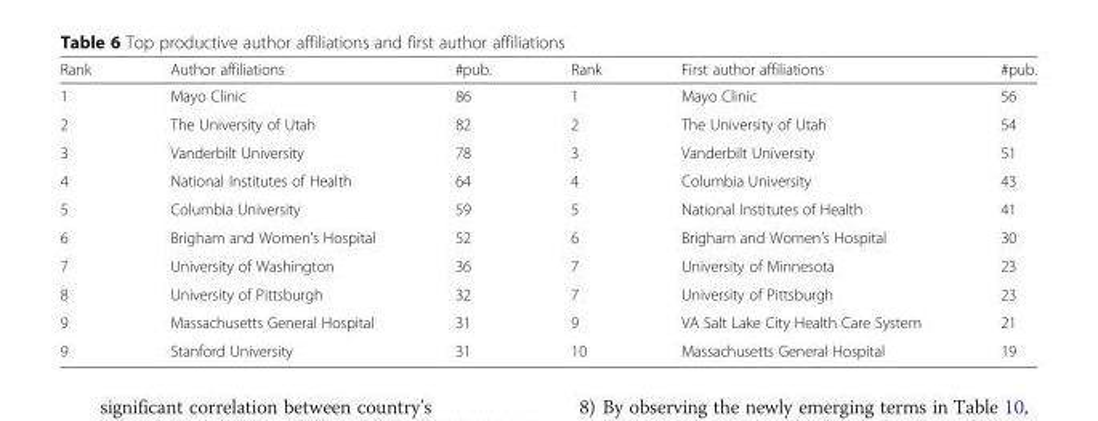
<table><thead><tr><td>Rank</td><td>Author affiliations</td><td>#pub.</td><td>Rank</td><td>First author affiliations</td><td>#pub.</td></tr></thead><tbody><tr><td>1</td><td>Mayo Clinic</td><td>86</td><td>1</td><td>Mayo Clinic</td><td>56</td></tr><tr><td>2</td><td>The University of Utah</td><td>82</td><td>2</td><td>The University of Utah</td><td>54</td></tr><tr><td>3</td><td>Vanderbilt University</td><td>78</td><td>3</td><td>Vanderbilt University</td><td>51</td></tr><tr><td>4</td><td>National Institutes of Health</td><td>64</td><td>4</td><td>Columbia University</td><td>43</td></tr><tr><td>5</td><td>Columbia University</td><td>59</td><td>5</td><td>National Institutes of Health</td><td>41</td></tr><tr><td>6</td><td>Brigham and Women’s Hospital</td><td>52</td><td>6</td><td>Brigham and Women’s Hospital</td><td>30</td></tr><tr><td>7</td><td>University of Washington</td><td>36</td><td>7</td><td>University of Minnesota</td><td>23</td></tr><tr><td>8</td><td>University of Pittsburgh</td><td>32</td><td>7</td><td>University of Pittsburgh</td><td>23</td></tr><tr><td>9</td><td>Massachusetts General Hospital</td><td>31</td><td>9</td><td>VA Salt Lake City Health Care System</td><td>21</td></tr><tr><td>9</td><td>Stanford University</td><td>31</td><td>10</td><td>Massachusetts General Hospital</td><td>19</td></tr></tbody></table>